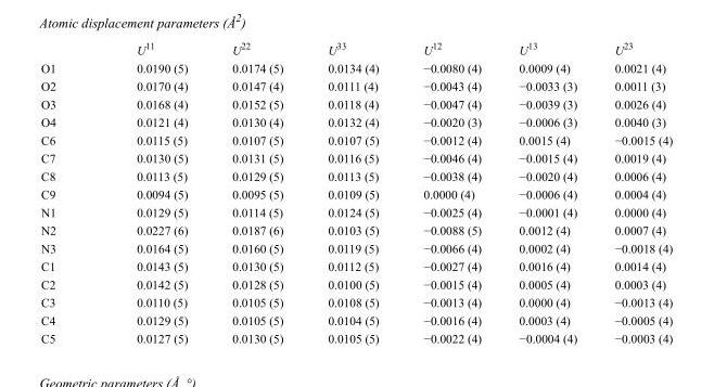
<table><thead><tr><td></td><td>U<sup>11</sup></td><td>U<sup>22</sup></td><td>U<sup>33</sup></td><td>U<sup>12</sup></td><td>U<sup>13</sup></td><td>U<sup>23</sup></td></tr></thead><tbody><tr><td>O1</td><td>0.0190 (5)</td><td>0.0174 (5)</td><td>0.0134 (4)</td><td>−0.0080 (4)</td><td>0.0009 (4)</td><td>0.0021 (4)</td></tr><tr><td>O2</td><td>0.0170 (4)</td><td>0.0147 (4)</td><td>0.0111 (4)</td><td>−0.0043 (4)</td><td>−0.0033 (3)</td><td>0.0011 (3)</td></tr><tr><td>O3</td><td>0.0168 (4)</td><td>0.0152 (5)</td><td>0.0118 (4)</td><td>−0.0047 (4)</td><td>−0.0039 (3)</td><td>0.0026 (4)</td></tr><tr><td>O4</td><td>0.0121 (4)</td><td>0.0130 (4)</td><td>0.0132 (4)</td><td>−0.0020 (3)</td><td>−0.0006 (3)</td><td>0.0040 (3)</td></tr><tr><td>C6</td><td>0.0115 (5)</td><td>0.0107 (5)</td><td>0.0107 (5)</td><td>−0.0012 (4)</td><td>0.0015 (4)</td><td>−0.0015 (4)</td></tr><tr><td>C7</td><td>0.0130 (5)</td><td>0.0131 (5)</td><td>0.0116 (5)</td><td>−0.0046 (4)</td><td>−0.0015 (4)</td><td>0.0019 (4)</td></tr><tr><td>C8</td><td>0.0113 (5)</td><td>0.0129 (5)</td><td>0.0113 (5)</td><td>−0.0038 (4)</td><td>−0.0020 (4)</td><td>0.0006 (4)</td></tr><tr><td>C9</td><td>0.0094 (5)</td><td>0.0095 (5)</td><td>0.0109 (5)</td><td>0.0000 (4)</td><td>−0.0006 (4)</td><td>0.0004 (4)</td></tr><tr><td>N1</td><td>0.0129 (5)</td><td>0.0114 (5)</td><td>0.0124 (5)</td><td>−0.0025 (4)</td><td>−0.0001 (4)</td><td>0.0000 (4)</td></tr><tr><td>N2</td><td>0.0227 (6)</td><td>0.0187 (6)</td><td>0.0103 (5)</td><td>−0.0088 (5)</td><td>0.0012 (4)</td><td>0.0007 (4)</td></tr><tr><td>N3</td><td>0.0164 (5)</td><td>0.0160 (5)</td><td>0.0119 (5)</td><td>−0.0066 (4)</td><td>0.0002 (4)</td><td>−0.0018 (4)</td></tr><tr><td>C1</td><td>0.0143 (5)</td><td>0.0130 (5)</td><td>0.0112 (5)</td><td>−0.0027 (4)</td><td>0.0016 (4)</td><td>0.0014 (4)</td></tr><tr><td>C2</td><td>0.0142 (5)</td><td>0.0128 (5)</td><td>0.0100 (5)</td><td>−0.0015 (4)</td><td>0.0005 (4)</td><td>0.0003 (4)</td></tr><tr><td>C3</td><td>0.0110 (5)</td><td>0.0105 (5)</td><td>0.0108 (5)</td><td>−0.0013 (4)</td><td>0.0000 (4)</td><td>−0.0013 (4)</td></tr><tr><td>C4</td><td>0.0129 (5)</td><td>0.0105 (5)</td><td>0.0104 (5)</td><td>−0.0016 (4)</td><td>0.0003 (4)</td><td>−0.0005 (4)</td></tr><tr><td>C5</td><td>0.0127 (5)</td><td>0.0130 (5)</td><td>0.0105 (5)</td><td>−0.0022 (4)</td><td>−0.0004 (4)</td><td>−0.0003 (4)</td></tr></tbody></table>